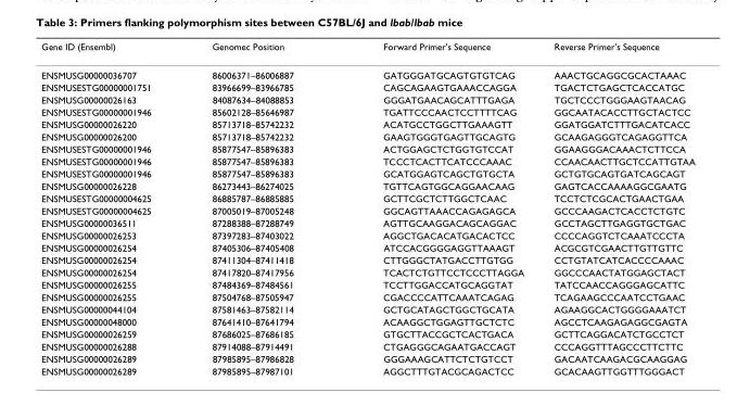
<table><thead><tr><td>Gene ID (Ensembl)</td><td>Genomec Position</td><td>Forward Primer&#x27;s Sequence</td><td>Reverse Primer&#x27;s Sequence</td></tr></thead><tbody><tr><td>ENSMUSG00000036707</td><td>86006371–86006887</td><td>GATGGGATGCAGTGTGTCAG</td><td>AAACTGCAGGCGCACTAAAC</td></tr><tr><td>ENSMUSESTG00000001751</td><td>83966699–83966785</td><td>CAGCAGAAGTGAAACCAGGA</td><td>TGACTCTGAGCTCACCATGC</td></tr><tr><td>ENSMUSG00000026163</td><td>84087634–84088853</td><td>GGGATGAACAGCATTTGAGA</td><td>TGCTCCCTGGGAAGTAACAG</td></tr><tr><td>ENSMUSESTG00000001946</td><td>85602128–85646987</td><td>TGATTCCCAACTCCTTTTCAG</td><td>GGCAATACACCTTGCTACTCC</td></tr><tr><td>ENSMUSG00000026220</td><td>85713718–85742232</td><td>ACATGCCTGGCTTGAAAGTT</td><td>GGATGGATCTTTGACATCACC</td></tr><tr><td>ENSMUSG00000026200</td><td>85713718–85742232</td><td>GAAGTGGGTGAGTTGCAGTG</td><td>GCAAGAGGGTCAGAGGTTCA</td></tr><tr><td>ENSMUSESTG00000001946</td><td>85877547–85896383</td><td>ACTGGAGCTCTGGTGTCCAT</td><td>GGAAGGGACAAACTCTTCCA</td></tr><tr><td>ENSMUSESTG00000001946</td><td>85877547–85896383</td><td>TCCCTCACTTCATCCCAAAC</td><td>CCAACAACTTGCTCCATTGTAA</td></tr><tr><td>ENSMUSESTG00000001946</td><td>85877547–85896383</td><td>GCATGGAGTCAGCTGTGCTA</td><td>GCTGTGCAGTGATCAGCAGT</td></tr><tr><td>ENSMUSG00000026228</td><td>86273443–86274025</td><td>TGTTCAGTGGCAGGAACAAG</td><td>GAGTCACCAAAAGGCGAATG</td></tr><tr><td>ENSMUSESTG00000004625</td><td>86885787–86885885</td><td>GCTTCGCTCTTGGCTCAAC</td><td>TCCTCTCGCACTGAACTGAA</td></tr><tr><td>ENSMUSESTG00000004625</td><td>87005019–87005248</td><td>GGCAGTTAAACCAGAGAGCA</td><td>GCCCAAGACTCACCTCTGTC</td></tr><tr><td>ENSMUSG00000036511</td><td>87288388–87288749</td><td>AGTTGCAAGGACAGCAGGAC</td><td>GCCTAGCTTGAGGTGCTGAC</td></tr><tr><td>ENSMUSG00000026253</td><td>87397283–87403022</td><td>AGGCTGACACATGACACTCC</td><td>CCCCAGGTCTCAAATCCCTA</td></tr><tr><td>ENSMUSG00000026254</td><td>87405306–87405408</td><td>ATCCACGGGGAGGTTAAAGT</td><td>ACGCGTCGAACTTGTTGTTC</td></tr><tr><td>ENSMUSG00000026254</td><td>87411304–87411418</td><td>CTTGGGCTATGACCTTGTGG</td><td>CCTGTATCATCACCCCAAAC</td></tr><tr><td>ENSMUSG00000026254</td><td>87417820–87417956</td><td>TCACTCTGTTCCTCCCTTAGGA</td><td>GGCCCAACTATGGAGCTACT</td></tr><tr><td>ENSMUSG00000026255</td><td>87484369–87484561</td><td>TCCTTGGACCATGCAGGTAT</td><td>TATCCAACCAGGGAGCATTC</td></tr><tr><td>ENSMUSG00000026255</td><td>87504768–87505947</td><td>CGACCCCATTCAAATCAGAG</td><td>TCAGAAGCCCAATCCTGAAC</td></tr><tr><td>ENSMUSG00000044104</td><td>87581463–87582114</td><td>GCTGCATAGCTGGCTGCATA</td><td>AGAAGGCACTGGGGAAATCT</td></tr><tr><td>ENSMUSG00000048000</td><td>87641410–87641794</td><td>ACAAGGCTGGAGTTGCTCTC</td><td>AGCCTCAAGAGAGGCGAGTA</td></tr><tr><td>ENSMUSG00000026259</td><td>87686025–87686185</td><td>GTGCTTACCGCTCACTGACA</td><td>GCTTCAGGACATCTGCCTCT</td></tr><tr><td>ENSMUSG00000026288</td><td>87914088–87914491</td><td>CTGAGGGCAGAATGACCAGT</td><td>CCCAGGTTTAGCCCTTCTTC</td></tr><tr><td>ENSMUSG00000026289</td><td>87985895–87986828</td><td>GGGAAAGCATTCTCTGTCCT</td><td>GACAATCAAGACGCAAGGAG</td></tr><tr><td>ENSMUSG00000026289</td><td>87985895–87987101</td><td>AGGCTTTGTACGCAGACTCC</td><td>GCACAAGTTGGTTTGGGACT</td></tr></tbody></table>